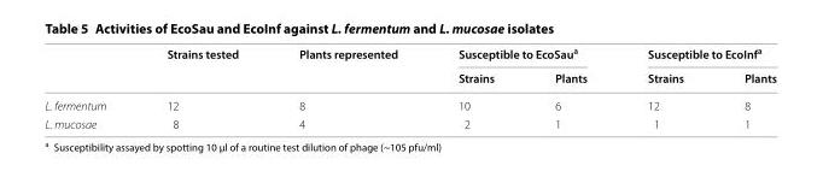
<table><thead><tr><td rowspan="2"></td><td rowspan="2">Strains tested</td><td rowspan="2">Plants represented</td><td colspan="2">Susceptible to EcoSau<sup>a</sup></td><td colspan="2">Susceptible to EcoInf<sup>a</sup></td></tr><tr><td>Strains</td><td>Plants</td><td>Strains</td><td>Plants</td></tr></thead><tbody><tr><td>L. fermentum</td><td>12</td><td>8</td><td>10</td><td>6</td><td>12</td><td>8</td></tr><tr><td>L. mucosae</td><td>8</td><td>4</td><td>2</td><td>1</td><td>1</td><td>1</td></tr></tbody></table>